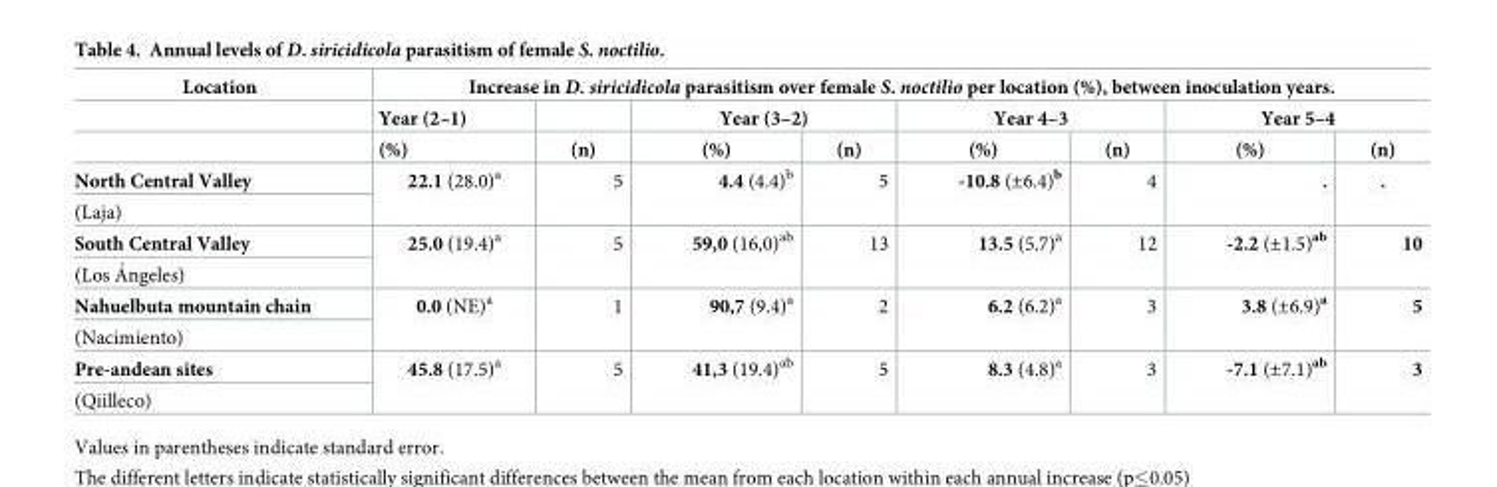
<table><thead><tr><td rowspan="3">Location</td><td colspan="8">Increase in D. siricidicola parasitism over female S. noctilio per location (%), between inoculation years.</td></tr><tr><td rowspan="2">Year (2–1) (%)</td><td rowspan="2">(n)</td><td colspan="2">Year (3–2)</td><td colspan="2">Year 4–3</td><td colspan="2">Year 5–4</td></tr><tr><td>(%)</td><td>(n)</td><td>(%)</td><td>(n)</td><td>(%)</td><td>(n)</td></tr></thead><tbody><tr><td>North Central Valley</td><td rowspan="2">22.1 (28.0)<sup>a</sup></td><td rowspan="2">5</td><td rowspan="2">4.4 (4.4)<sup>b</sup></td><td rowspan="2">5</td><td rowspan="2">-10.8 (±6.4)<sup>b</sup></td><td rowspan="2">4</td><td rowspan="2">.</td><td rowspan="2">.</td></tr><tr><td>(Laja)</td></tr><tr><td>South Central Valley</td><td rowspan="2">25.0 (19.4)<sup>a</sup></td><td rowspan="2">5</td><td rowspan="2">59,0 (16,0)<sup>ab</sup></td><td rowspan="2">13</td><td rowspan="2">13.5 (5.7)<sup>a</sup></td><td rowspan="2">12</td><td rowspan="2">-2.2 (±1.5)<sup>ab</sup></td><td rowspan="2">10</td></tr><tr><td>(Los A´ngeles)</td></tr><tr><td>Nahuelbuta mountain chain</td><td rowspan="2">0.0 (NE)<sup>a</sup></td><td rowspan="2">1</td><td rowspan="2">90,7 (9.4)<sup>a</sup></td><td rowspan="2">2</td><td rowspan="2">6.2 (6.2)<sup>a</sup></td><td rowspan="2">3</td><td rowspan="2">3.8 (±6.9)<sup>a</sup></td><td rowspan="2">5</td></tr><tr><td>(Nacimiento)</td></tr><tr><td>Pre-andean sites</td><td rowspan="2">45.8 (17.5)<sup>a</sup></td><td rowspan="2">5</td><td rowspan="2">41,3 (19.4)<sup>ab</sup></td><td rowspan="2">5</td><td rowspan="2">8.3 (4.8)<sup>a</sup></td><td rowspan="2">3</td><td rowspan="2">-7.1 (±7.1)<sup>ab</sup></td><td rowspan="2">3</td></tr><tr><td>(Qiilleco)</td></tr></tbody></table>